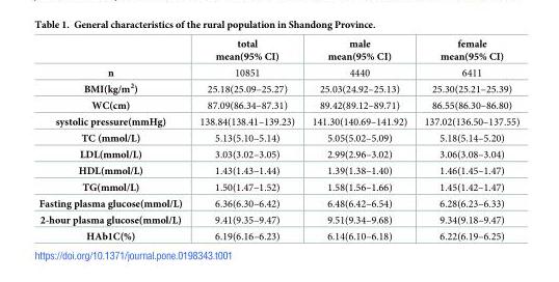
<table><thead><tr><td></td><td>total mean(95% CI)</td><td>male mean(95% CI)</td><td>female mean(95% CI)</td></tr></thead><tbody><tr><td>n</td><td>10851</td><td>4440</td><td>6411</td></tr><tr><td>BMI(kg/m<sup>2</sup>)</td><td>25.18(25.09–25.27)</td><td>25.03(24.92–25.13)</td><td>25.30(25.21–25.39)</td></tr><tr><td>WC(cm)</td><td>87.09(86.34–87.31)</td><td>89.42(89.12–89.71)</td><td>86.55(86.30–86.80)</td></tr><tr><td>systolic pressure(mmHg)</td><td>138.84(138.41–139.23)</td><td>141.30(140.69–141.92)</td><td>137.02(136.50–137.55)</td></tr><tr><td>TC (mmol/L)</td><td>5.13(5.10–5.14)</td><td>5.05(5.02–5.09)</td><td>5.18(5.14–5.20)</td></tr><tr><td>LDL(mmol/L)</td><td>3.03(3.02–3.05)</td><td>2.99(2.96–3.02)</td><td>3.06(3.08–3.04)</td></tr><tr><td>HDL(mmol/L)</td><td>1.43(1.43–1.44)</td><td>1.39(1.38–1.40)</td><td>1.46(1.45–1.47)</td></tr><tr><td>TG(mmol/L)</td><td>1.50(1.47–1.52)</td><td>1.58(1.56–1.66)</td><td>1.45(1.42–1.47)</td></tr><tr><td>Fasting plasma glucose(mmol/L)</td><td>6.36(6.30–6.42)</td><td>6.48(6.42–6.54)</td><td>6.28(6.23–6.33)</td></tr><tr><td>2-hour plasma glucose(mmol/L)</td><td>9.41(9.35–9.47)</td><td>9.51(9.34–9.68)</td><td>9.34(9.18–9.47)</td></tr><tr><td>HAb1C(%)</td><td>6.19(6.16–6.23)</td><td>6.14(6.10–6.18)</td><td>6.22(6.19–6.25)</td></tr></tbody></table>